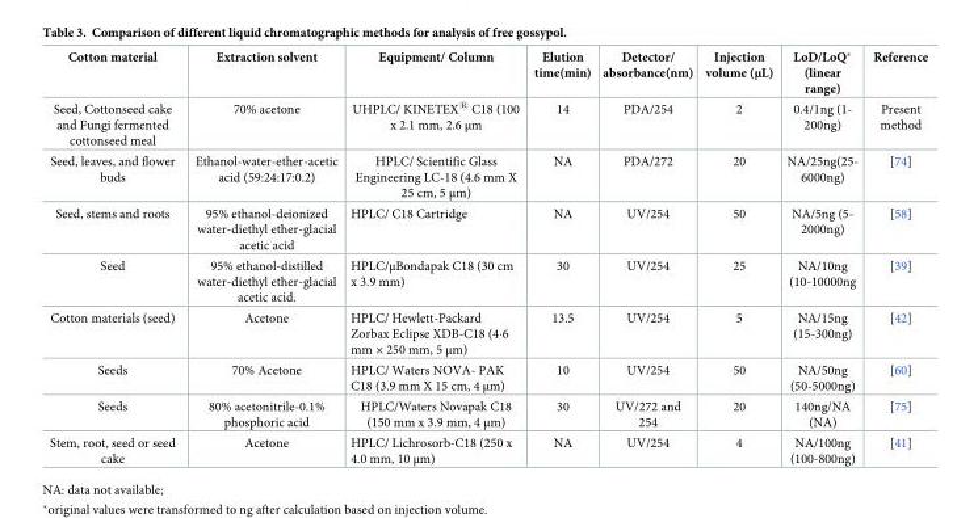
<table><thead><tr><td>Cotton material</td><td>Extraction solvent</td><td>Equipment/ Column</td><td>Elution time(min)</td><td>Detector/ absorbance(nm)</td><td>Injection volume (μL)</td><td>LoD/LoQ* (linear range)</td><td>Reference</td></tr></thead><tbody><tr><td>Seed, Cottonseed cake and Fungi fermented cottonseed meal</td><td>70% acetone</td><td>UHPLC/ KINETEX<sup>®</sup> C18 (100 x 2.1 mm, 2.6 μm</td><td>14</td><td>PDA/254</td><td>2</td><td>0.4/1ng (1- 200ng)</td><td>Present method</td></tr><tr><td>Seed, leaves, and flower buds</td><td>Ethanol-water-ether-acetic acid (59:24:17:0.2)</td><td>HPLC/ Scientific Glass Engineering LC-18 (4.6 mm X 25 cm, 5 μm)</td><td>NA</td><td>PDA/272</td><td>20</td><td>NA/25ng(25- 6000ng)</td><td>[74]</td></tr><tr><td>Seed, stems and roots</td><td>95% ethanol-deionized water-diethyl ether-glacial acetic acid</td><td>HPLC/ C18 Cartridge</td><td>NA</td><td>UV/254</td><td>50</td><td>NA/5ng (5- 2000ng)</td><td>[58]</td></tr><tr><td>Seed</td><td>95% ethanol-distilled water-diethyl ether-glacial acetic acid.</td><td>HPLC/μBondapak C18 (30 cm x 3.9 mm)</td><td>30</td><td>UV/254</td><td>25</td><td>NA/10ng (10-10000ng</td><td>[39]</td></tr><tr><td>Cotton materials (seed)</td><td>Acetone</td><td>HPLC/ Hewlett-Packard Zorbax Eclipse XDB-C18 (4⋅6 mm × 250 mm, 5 μm)</td><td>13.5</td><td>UV/254</td><td>5</td><td>NA/15ng (15-300ng)</td><td>[42]</td></tr><tr><td>Seeds</td><td>70% Acetone</td><td>HPLC/ Waters NOVA- PAK C18 (3.9 mm X 15 cm, 4 μm)</td><td>10</td><td>UV/254</td><td>50</td><td>NA/50ng (50-5000ng)</td><td>[60]</td></tr><tr><td>Seeds</td><td>80% acetonitrile-0.1% phosphoric acid</td><td>HPLC/Waters Novapak C18 (150 mm x 3.9 mm, 4 μm)</td><td>30</td><td>UV/272 and 254</td><td>20</td><td>140ng/NA (NA)</td><td>[75]</td></tr><tr><td>Stem, root, seed or seed cake</td><td>Acetone</td><td>HPLC/ Lichrosorb-C18 (250 x 4.0 mm, 10 μm)</td><td>NA</td><td>UV/254</td><td>4</td><td>NA/100ng (100-800ng)</td><td>[41]</td></tr></tbody></table>